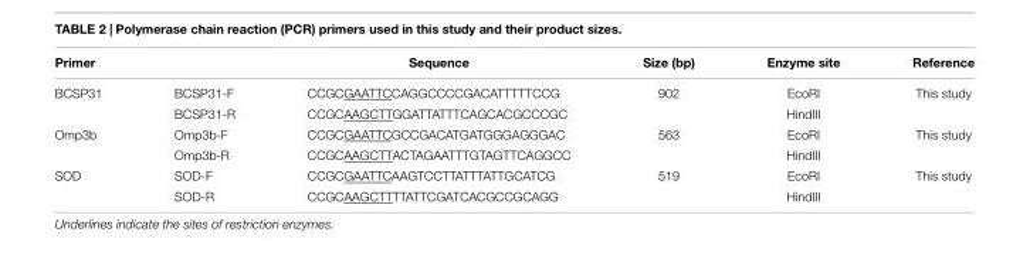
<table><thead><tr><td>Primer</td><td></td><td>Sequence</td><td>Size (bp)</td><td>Enzyme site</td><td>Reference</td></tr></thead><tbody><tr><td rowspan="2">BCSP31</td><td>BCSP31-F</td><td>CCGCGAATTCCAGGCCCCGACATTTTTCCG</td><td>902</td><td>EcoRI</td><td>This study</td></tr><tr><td>BCSP31-R</td><td>CCGCAAGCTTGGATTATTTCAGCACGCCCGC</td><td></td><td>HindIII</td><td></td></tr><tr><td rowspan="2">Omp3b</td><td>Omp3b-F</td><td>CCGCGAATTCGCCGACATGATGGGAGGGAC</td><td>563</td><td>EcoRI</td><td>This study</td></tr><tr><td>Omp3b-R</td><td>CCGCAAGCTTACTAGAATTTGTAGTTCAGGCC</td><td></td><td>HindIII</td><td></td></tr><tr><td rowspan="2">SOD</td><td>SOD-F</td><td>CCGCGAATTCAAGTCCTTATTTATTGCATCG</td><td>519</td><td>EcoRI</td><td>This study</td></tr><tr><td>SOD-R</td><td>CCGCAAGCTTTTATTCGATCACGCCGCAGG</td><td></td><td>HindIII</td><td></td></tr></tbody></table>